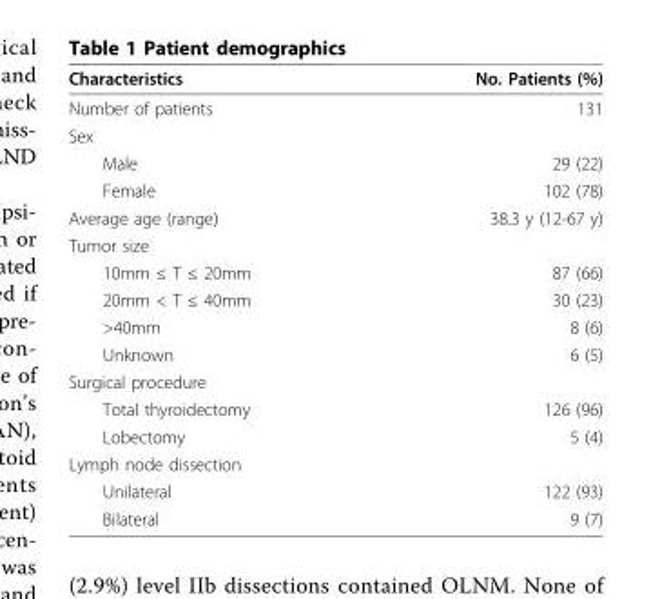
<table><thead><tr><td>Characteristics</td><td>No. Patients (%)</td></tr></thead><tbody><tr><td>Number of patients</td><td>131</td></tr><tr><td colspan="2">Sex</td></tr><tr><td>Male</td><td>29 (22)</td></tr><tr><td>Female</td><td>102 (78)</td></tr><tr><td>Average age (range)</td><td>38.3 y (12-67 y)</td></tr><tr><td colspan="2">Tumor size</td></tr><tr><td>10mm ≤ T ≤ 20mm</td><td>87 (66)</td></tr><tr><td>20mm &lt; T ≤ 40mm</td><td>30 (23)</td></tr><tr><td>&gt;40mm</td><td>8 (6)</td></tr><tr><td>Unknown</td><td>6 (5)</td></tr><tr><td colspan="2">Surgical procedure</td></tr><tr><td>Total thyroidectomy</td><td>126 (96)</td></tr><tr><td>Lobectomy</td><td>5 (4)</td></tr><tr><td colspan="2">Lymph node dissection</td></tr><tr><td>Unilateral</td><td>122 (93)</td></tr><tr><td>Bilateral</td><td>9 (7)</td></tr></tbody></table>